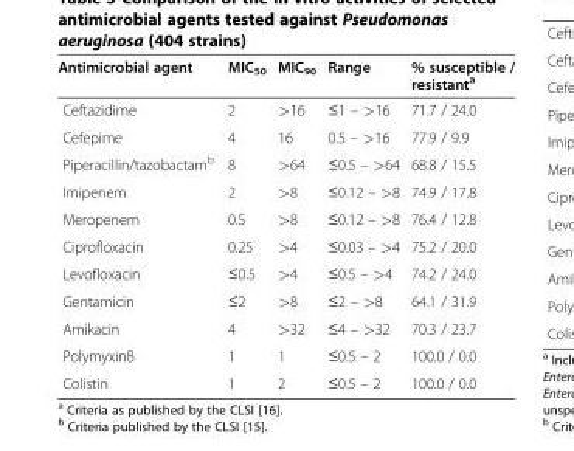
<table><thead><tr><td>Antimicrobial agent</td><td>MIC<sub>50</sub></td><td>MIC<sub>90</sub></td><td>Range</td><td>% susceptible / resistant<sup>a</sup></td></tr></thead><tbody><tr><td>Ceftazidime</td><td>2</td><td>&gt;16</td><td>≤1 – &gt;16</td><td>71.7 / 24.0</td></tr><tr><td>Cefepime</td><td>4</td><td>16</td><td>0.5 – &gt;16</td><td>77.9 / 9.9</td></tr><tr><td>Piperacillin/tazobactam<sup>b</sup></td><td>8</td><td>&gt;64</td><td>≤0.5 – &gt;64</td><td>68.8 / 15.5</td></tr><tr><td>Imipenem</td><td>2</td><td>&gt;8</td><td>≤0.12 – &gt;8</td><td>74.9 / 17.8</td></tr><tr><td>Meropenem</td><td>0.5</td><td>&gt;8</td><td>≤0.12 – &gt;8</td><td>76.4 / 12.8</td></tr><tr><td>Ciprofloxacin</td><td>0.25</td><td>&gt;4</td><td>≤0.03 – &gt;4</td><td>75.2 / 20.0</td></tr><tr><td>Levofloxacin</td><td>≤0.5</td><td>&gt;4</td><td>≤0.5 – &gt;4</td><td>74.2 / 24.0</td></tr><tr><td>Gentamicin</td><td>≤2</td><td>&gt;8</td><td>≤2 – &gt;8</td><td>64.1 / 31.9</td></tr><tr><td>Amikacin</td><td>4</td><td>&gt;32</td><td>≤4 – &gt;32</td><td>70.3 / 23.7</td></tr><tr><td>PolymyxinB</td><td>1</td><td>1</td><td>≤0.5 – 2</td><td>100.0 / 0.0</td></tr><tr><td>Colistin</td><td>1</td><td>2</td><td>≤0.5 – 2</td><td>100.0 / 0.0</td></tr></tbody></table>